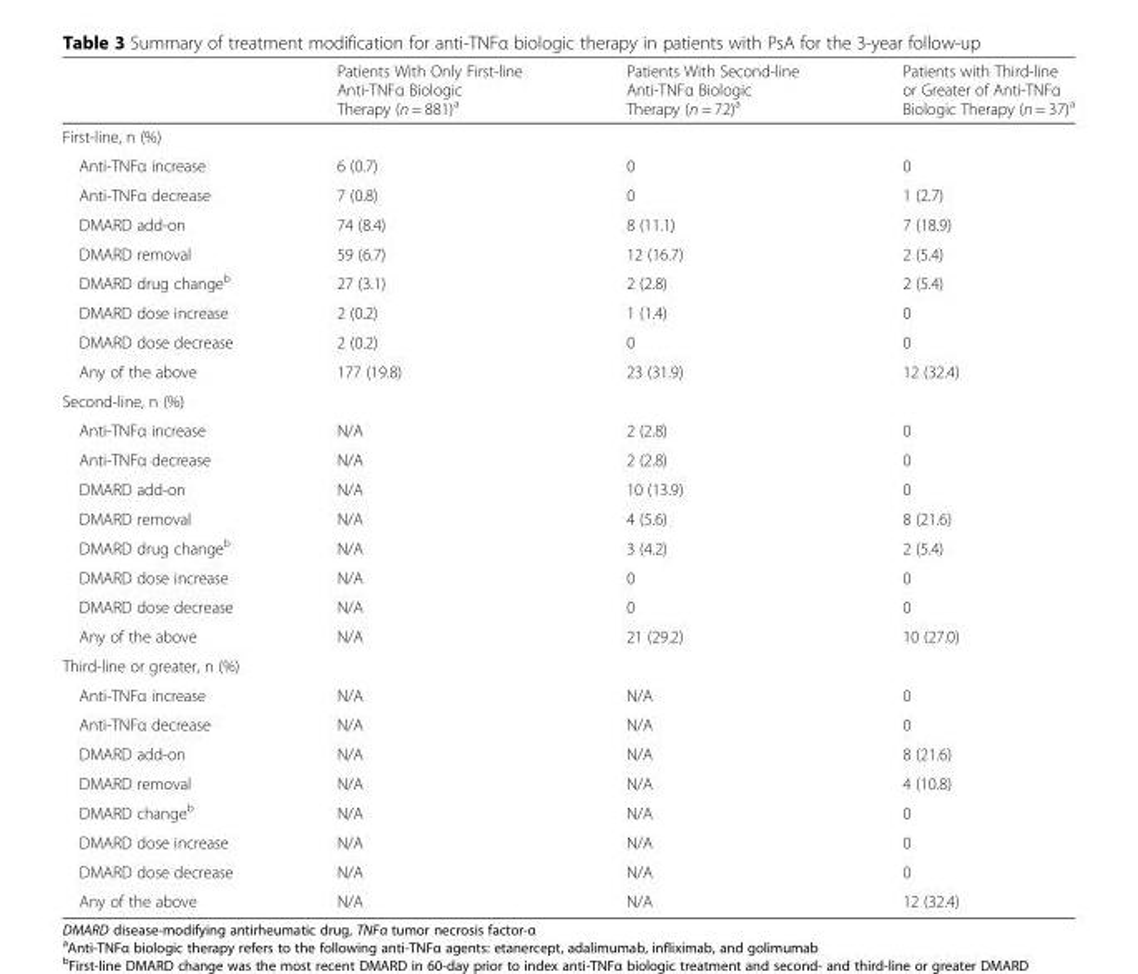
<table><thead><tr><td></td><td>Patients With Only First-line Anti-TNFα Biologic Therapy (n = 881)<sup>a</sup></td><td>Patients With Second-line Anti-TNFα Biologic Therapy (n = 72)<sup>a</sup></td><td>Patients with Third-line or Greater of Anti-TNFα Biologic Therapy (n = 37)<sup>a</sup></td></tr></thead><tbody><tr><td colspan="4">First-line, n (%)</td></tr><tr><td>Anti-TNFα increase</td><td>6 (0.7)</td><td>0</td><td>0</td></tr><tr><td>Anti-TNFα decrease</td><td>7 (0.8)</td><td>0</td><td>1 (2.7)</td></tr><tr><td>DMARD add-on</td><td>74 (8.4)</td><td>8 (11.1)</td><td>7 (18.9)</td></tr><tr><td>DMARD removal</td><td>59 (6.7)</td><td>12 (16.7)</td><td>2 (5.4)</td></tr><tr><td>DMARD drug change<sup>b</sup></td><td>27 (3.1)</td><td>2 (2.8)</td><td>2 (5.4)</td></tr><tr><td>DMARD dose increase</td><td>2 (0.2)</td><td>1 (1.4)</td><td>0</td></tr><tr><td>DMARD dose decrease</td><td>2 (0.2)</td><td>0</td><td>0</td></tr><tr><td>Any of the above</td><td>177 (19.8)</td><td>23 (31.9)</td><td>12 (32.4)</td></tr><tr><td colspan="4">Second-line, n (%)</td></tr><tr><td>Anti-TNFα increase</td><td>N/A</td><td>2 (2.8)</td><td>0</td></tr><tr><td>Anti-TNFα decrease</td><td>N/A</td><td>2 (2.8)</td><td>0</td></tr><tr><td>DMARD add-on</td><td>N/A</td><td>10 (13.9)</td><td>0</td></tr><tr><td>DMARD removal</td><td>N/A</td><td>4 (5.6)</td><td>8 (21.6)</td></tr><tr><td>DMARD drug change<sup>b</sup></td><td>N/A</td><td>3 (4.2)</td><td>2 (5.4)</td></tr><tr><td>DMARD dose increase</td><td>N/A</td><td>0</td><td>0</td></tr><tr><td>DMARD dose decrease</td><td>N/A</td><td>0</td><td>0</td></tr><tr><td>Any of the above</td><td>N/A</td><td>21 (29.2)</td><td>10 (27.0)</td></tr><tr><td colspan="4">Third-line or greater, n (%)</td></tr><tr><td>Anti-TNFα increase</td><td>N/A</td><td>N/A</td><td>0</td></tr><tr><td>Anti-TNFα decrease</td><td>N/A</td><td>N/A</td><td>0</td></tr><tr><td>DMARD add-on</td><td>N/A</td><td>N/A</td><td>8 (21.6)</td></tr><tr><td>DMARD removal</td><td>N/A</td><td>N/A</td><td>4 (10.8)</td></tr><tr><td>DMARD change<sup>b</sup></td><td>N/A</td><td>N/A</td><td>0</td></tr><tr><td>DMARD dose increase</td><td>N/A</td><td>N/A</td><td>0</td></tr><tr><td>DMARD dose decrease</td><td>N/A</td><td>N/A</td><td>0</td></tr><tr><td>Any of the above</td><td>N/A</td><td>N/A</td><td>12 (32.4)</td></tr></tbody></table>